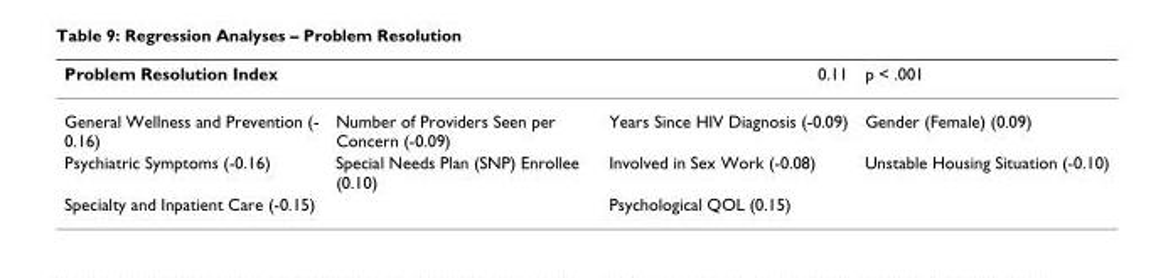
<table><thead><tr><td>Problem Resolution Index</td><td></td><td>0.11</td><td>p &lt; .001</td></tr></thead><tbody><tr><td>General Wellness and Prevention (- 0.16)</td><td>Number of Providers Seen per Concern (-0.09)</td><td>Years Since HIV Diagnosis (-0.09)</td><td>Gender (Female) (0.09)</td></tr><tr><td>Psychiatric Symptoms (-0.16)</td><td>Special Needs Plan (SNP) Enrollee (0.10)</td><td>Involved in Sex Work (-0.08)</td><td>Unstable Housing Situation (-0.10)</td></tr><tr><td>Specialty and Inpatient Care (-0.15)</td><td></td><td>Psychological QOL (0.15)</td><td></td></tr></tbody></table>